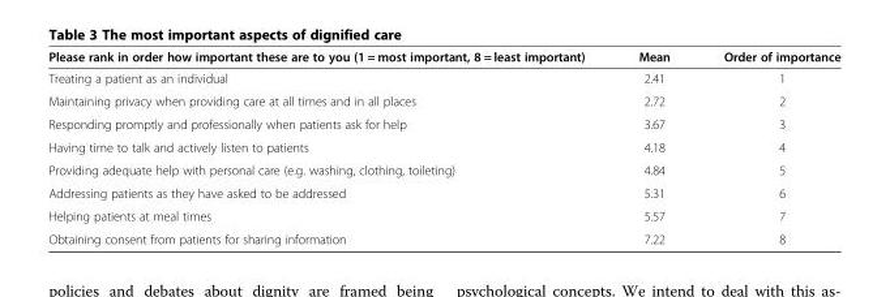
<table><thead><tr><td>Please rank in order how important these are to you (1 = most important, 8 = least important)</td><td>Mean</td><td>Order of importance</td></tr></thead><tbody><tr><td>Treating a patient as an individual</td><td>2.41</td><td>1</td></tr><tr><td>Maintaining privacy when providing care at all times and in all places</td><td>2.72</td><td>2</td></tr><tr><td>Responding promptly and professionally when patients ask for help</td><td>3.67</td><td>3</td></tr><tr><td>Having time to talk and actively listen to patients</td><td>4.18</td><td>4</td></tr><tr><td>Providing adequate help with personal care (e.g. washing, clothing, toileting)</td><td>4.84</td><td>5</td></tr><tr><td>Addressing patients as they have asked to be addressed</td><td>5.31</td><td>6</td></tr><tr><td>Helping patients at meal times</td><td>5.57</td><td>7</td></tr><tr><td>Obtaining consent from patients for sharing information</td><td>7.22</td><td>8</td></tr></tbody></table>